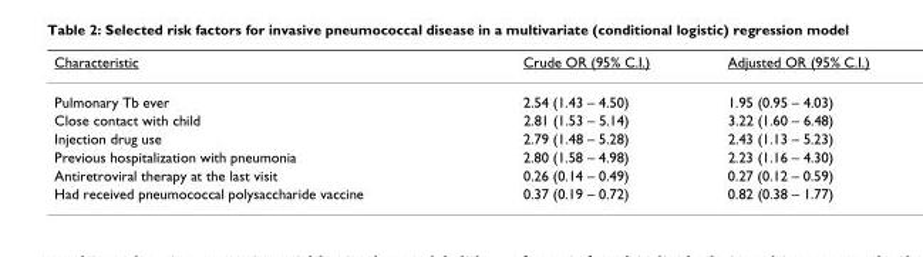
<table><thead><tr><td>Characteristic</td><td>Crude OR (95% C.I.)</td><td>Adjusted OR (95% C.I.)</td></tr></thead><tbody><tr><td>Pulmonary Tb ever</td><td>2.54 (1.43 – 4.50)</td><td>1.95 (0.95 – 4.03)</td></tr><tr><td>Close contact with child</td><td>2.81 (1.53 – 5.14)</td><td>3.22 (1.60 – 6.48)</td></tr><tr><td>Injection drug use</td><td>2.79 (1.48 – 5.28)</td><td>2.43 (1.13 – 5.23)</td></tr><tr><td>Previous hospitalization with pneumonia</td><td>2.80 (1.58 – 4.98)</td><td>2.23 (1.16 – 4.30)</td></tr><tr><td>Antiretroviral therapy at the last visit</td><td>0.26 (0.14 – 0.49)</td><td>0.27 (0.12 – 0.59)</td></tr><tr><td>Had received pneumococcal polysaccharide vaccine</td><td>0.37 (0.19 – 0.72)</td><td>0.82 (0.38 – 1.77)</td></tr></tbody></table>